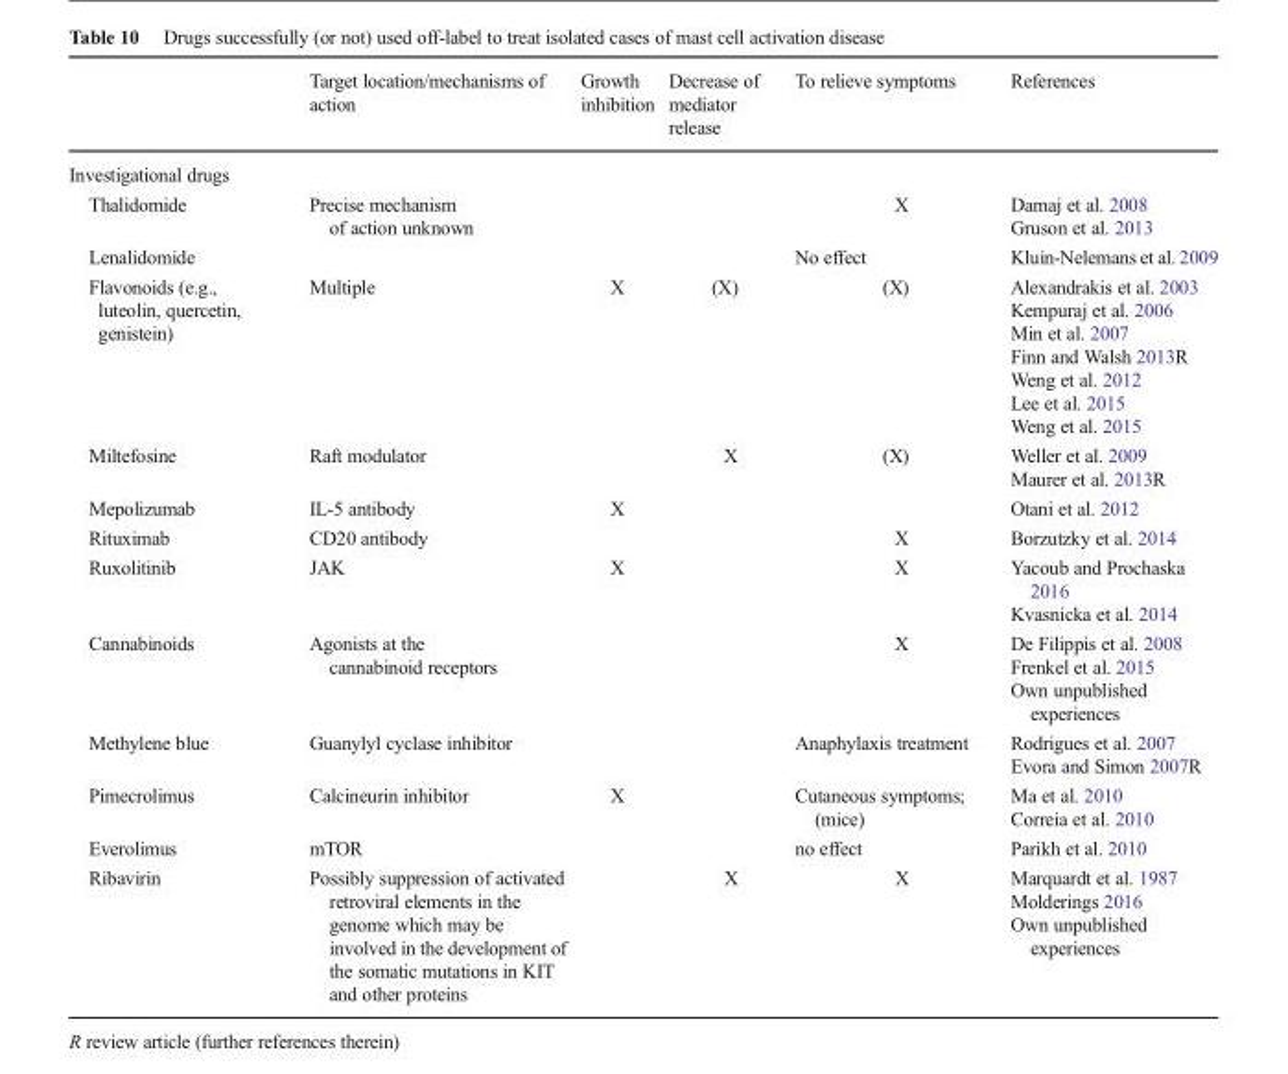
<table><thead><tr><td></td><td>Target location/mechanisms of action</td><td>Growth inhibition</td><td>Decrease of mediator release</td><td>To relieve symptoms</td><td>References</td></tr></thead><tbody><tr><td colspan="6">Investigational drugs</td></tr><tr><td>Thalidomide</td><td>Precise mechanism of action unknown</td><td></td><td></td><td>X</td><td>Damaj et al. 2008 Gruson et al. 2013</td></tr><tr><td>Lenalidomide</td><td></td><td></td><td></td><td>No effect</td><td>Kluin-Nelemans et al. 2009</td></tr><tr><td>Flavonoids (e.g., luteolin, quercetin, genistein)</td><td>Multiple</td><td>X</td><td>(X)</td><td>(X)</td><td>Alexandrakis et al. 2003 Kempuraj et al. 2006 Min et al. 2007 Finn and Walsh 2013R Weng et al. 2012 Lee et al. 2015 Weng et al. 2015</td></tr><tr><td>Miltefosine</td><td>Raft modulator</td><td></td><td>X</td><td>(X)</td><td>Weller et al. 2009 Maurer et al. 2013R</td></tr><tr><td>Mepolizumab</td><td>IL-5 antibody</td><td>X</td><td></td><td></td><td>Otani et al. 2012</td></tr><tr><td>Rituximab</td><td>CD20 antibody</td><td></td><td></td><td>X</td><td>Borzutzky et al. 2014</td></tr><tr><td>Ruxolitinib</td><td>JAK</td><td>X</td><td></td><td>X</td><td>Yacoub and Prochaska 2016 Kvasnicka et al. 2014</td></tr><tr><td>Cannabinoids</td><td>Agonists at the cannabinoid receptors</td><td></td><td></td><td>X</td><td>De Filippis et al. 2008 Frenkel et al. 2015 Own unpublished experiences</td></tr><tr><td>Methylene blue</td><td>Guanylyl cyclase inhibitor</td><td></td><td></td><td>Anaphylaxis treatment</td><td>Rodrigues et al. 2007 Evora and Simon 2007R</td></tr><tr><td>Pimecrolimus</td><td>Calcineurin inhibitor</td><td>X</td><td></td><td>Cutaneous symptoms; (mice)</td><td>Ma et al. 2010 Correia et al. 2010</td></tr><tr><td>Everolimus</td><td>mTOR</td><td></td><td></td><td>no effect</td><td>Parikh et al. 2010</td></tr><tr><td>Ribavirin</td><td>Possibly suppression of activated retroviral elements in the genome which may be involved in the development of the somatic mutations in KIT and other proteins</td><td></td><td>X</td><td>X</td><td>Marquardt et al. 1987 Molderings 2016 Own unpublished experiences</td></tr></tbody></table>